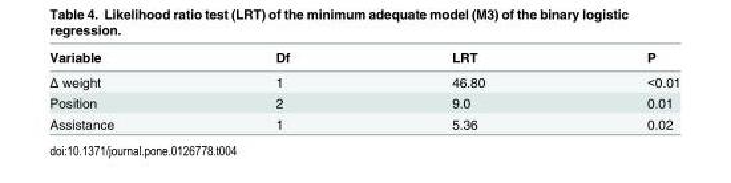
<table><thead><tr><td>Variable</td><td>Df</td><td>LRT</td><td>P</td></tr></thead><tbody><tr><td>Δ weight</td><td>1</td><td>46.80</td><td>&lt;0.01</td></tr><tr><td>Position</td><td>2</td><td>9.0</td><td>0.01</td></tr><tr><td>Assistance</td><td>1</td><td>5.36</td><td>0.02</td></tr></tbody></table>